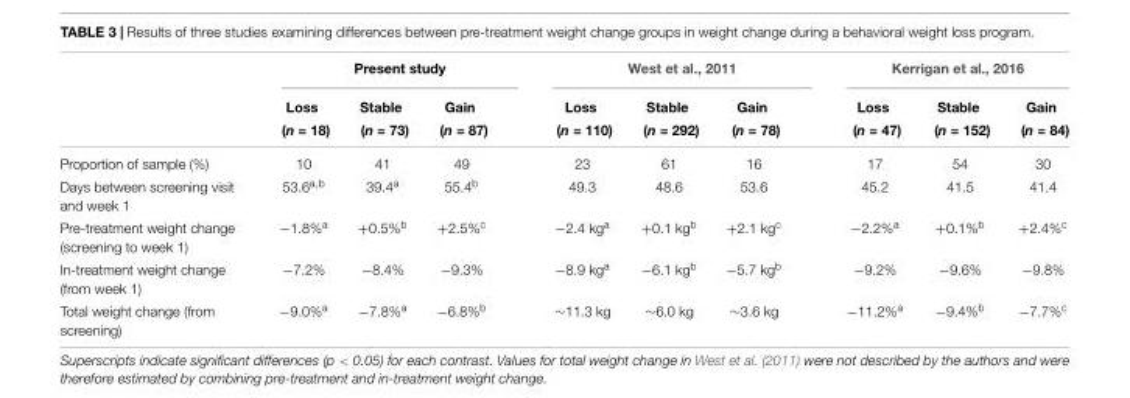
<table><thead><tr><td rowspan="3"></td><td colspan="3">Present study</td><td colspan="3">West et al., 2011</td><td colspan="3">Kerrigan et al., 2016</td></tr><tr><td rowspan="2">Loss (n = 18)</td><td rowspan="2">Stable (n = 73)</td><td rowspan="2">Gain (n = 87)</td><td rowspan="2">Loss (n = 110)</td><td rowspan="2">Stable (n = 292)</td><td rowspan="2">Gain (n = 78)</td><td rowspan="2">Loss (n = 47)</td><td rowspan="2">Stable (n = 152)</td><td rowspan="2">Gain (n = 84)</td></tr><tr></tr></thead><tbody><tr><td>Proportion of sample (%)</td><td>10</td><td>41</td><td>49</td><td>23</td><td>61</td><td>16</td><td>17</td><td>54</td><td>30</td></tr><tr><td>Days between screening visit and week 1</td><td>53.6<sup>a,b</sup></td><td>39.4<sup>a</sup></td><td>55.4<sup>b</sup></td><td>49.3</td><td>48.6</td><td>53.6</td><td>45.2</td><td>41.5</td><td>41.4</td></tr><tr><td>Pre-treatment weight change (screening to week 1)</td><td>−1.8%<sup>a</sup></td><td>+0.5%<sup>b</sup></td><td>+2.5%<sup>c</sup></td><td>−2.4 kg<sup>a</sup></td><td>+0.1 kg<sup>b</sup></td><td>+2.1 kg<sup>c</sup></td><td>−2.2%<sup>a</sup></td><td>+0.1%<sup>b</sup></td><td>+2.4%<sup>c</sup></td></tr><tr><td>In-treatment weight change (from week 1)</td><td>−7.2%</td><td>−8.4%</td><td>−9.3%</td><td>−8.9 kg<sup>a</sup></td><td>−6.1 kg<sup>b</sup></td><td>−5.7 kg<sup>b</sup></td><td>−9.2%</td><td>−9.6%</td><td>−9.8%</td></tr><tr><td>Total weight change (from screening)</td><td>−9.0%<sup>a</sup></td><td>−7.8%<sup>a</sup></td><td>−6.8%<sup>b</sup></td><td>∼11.3 kg</td><td>∼6.0 kg</td><td>∼3.6 kg</td><td>−11.2%<sup>a</sup></td><td>−9.4%<sup>b</sup></td><td>−7.7%<sup>c</sup></td></tr></tbody></table>